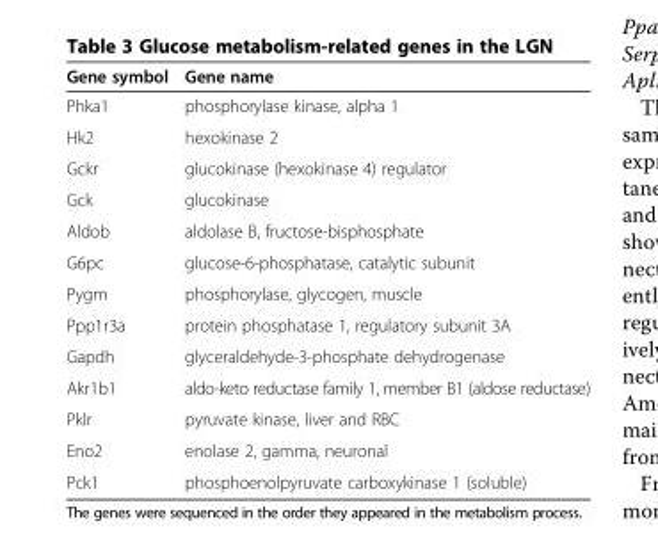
<table><thead><tr><td>Gene symbol</td><td>Gene name</td></tr></thead><tbody><tr><td>Phka1</td><td>phosphorylase kinase, alpha 1</td></tr><tr><td>Hk2</td><td>hexokinase 2</td></tr><tr><td>Gckr</td><td>glucokinase (hexokinase 4) regulator</td></tr><tr><td>Gck</td><td>glucokinase</td></tr><tr><td>Aldob</td><td>aldolase B, fructose-bisphosphate</td></tr><tr><td>G6pc</td><td>glucose-6-phosphatase, catalytic subunit</td></tr><tr><td>Pygm</td><td>phosphorylase, glycogen, muscle</td></tr><tr><td>Ppp1r3a</td><td>protein phosphatase 1, regulatory subunit 3A</td></tr><tr><td>Gapdh</td><td>glyceraldehyde-3-phosphate dehydrogenase</td></tr><tr><td>Akr1b1</td><td>aldo-keto reductase family 1, member B1 (aldose reductase)</td></tr><tr><td>Pklr</td><td>pyruvate kinase, liver and RBC</td></tr><tr><td>Eno2</td><td>enolase 2, gamma, neuronal</td></tr><tr><td>Pck1</td><td>phosphoenolpyruvate carboxykinase 1 (soluble)</td></tr></tbody></table>